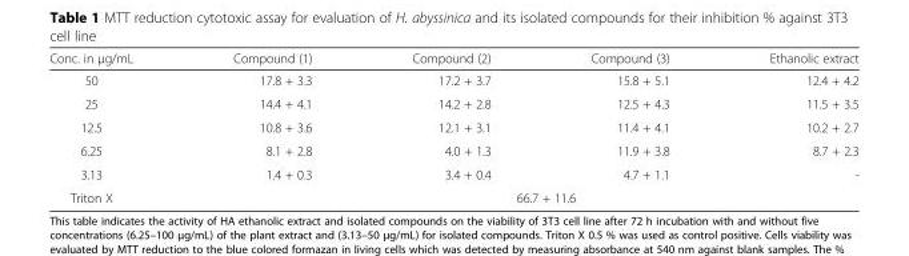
<table><thead><tr><td>Conc. in μg/mL</td><td>Compound (1)</td><td>Compound (2)</td><td>Compound (3)</td><td>Ethanolic extract</td></tr></thead><tbody><tr><td>50</td><td>17.8 + 3.3</td><td>17.2 + 3.7</td><td>15.8 + 5.1</td><td>12.4 + 4.2</td></tr><tr><td>25</td><td>14.4 + 4.1</td><td>14.2 + 2.8</td><td>12.5 + 4.3</td><td>11.5 + 3.5</td></tr><tr><td>12.5</td><td>10.8 + 3.6</td><td>12.1 + 3.1</td><td>11.4 + 4.1</td><td>10.2 + 2.7</td></tr><tr><td>6.25</td><td>8.1 + 2.8</td><td>4.0 + 1.3</td><td>11.9 + 3.8</td><td>8.7 + 2.3</td></tr><tr><td>3.13</td><td>1.4 + 0.3</td><td>3.4 + 0.4</td><td>4.7 + 1.1</td><td>-</td></tr><tr><td>Triton X</td><td colspan="4">66.7 + 11.6</td></tr></tbody></table>